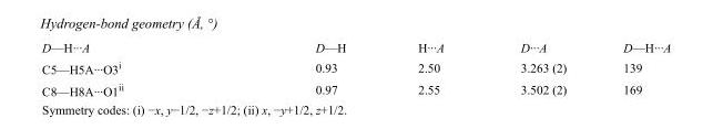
<table><tbody><tr><td>D—H···A</td><td>D—H</td><td>H···A</td><td>D···A</td><td>D—H···A</td></tr><tr><td>C5—H5A···O3<sup>i</sup></td><td>0.93</td><td>2.50</td><td>3.263 (2)</td><td>139</td></tr><tr><td>C8—H8A···O1<sup>ii</sup></td><td>0.97</td><td>2.55</td><td>3.502 (2)</td><td>169</td></tr></tbody></table>